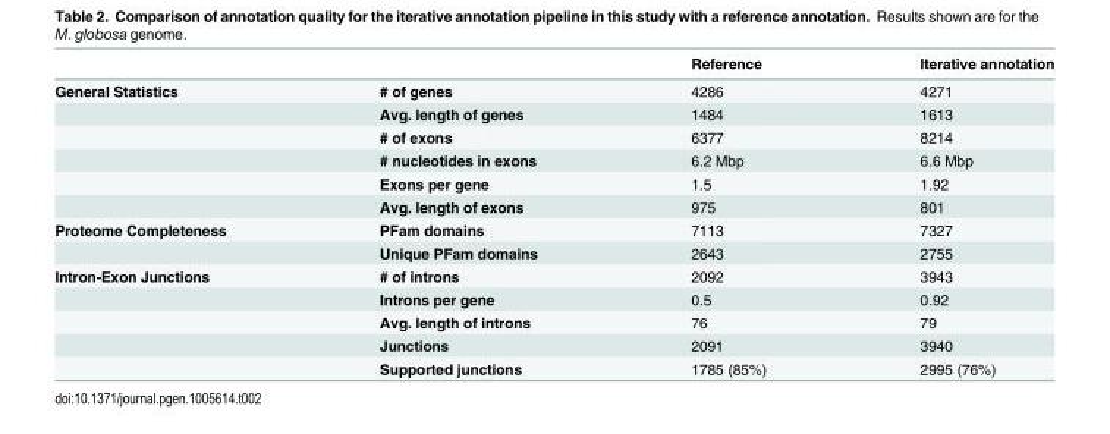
<table><thead><tr><td></td><td></td><td>Reference</td><td>Iterative annotation</td></tr></thead><tbody><tr><td rowspan="6">General Statistics</td><td># of genes</td><td>4286</td><td>4271</td></tr><tr><td>Avg. length of genes</td><td>1484</td><td>1613</td></tr><tr><td># of exons</td><td>6377</td><td>8214</td></tr><tr><td># nucleotides in exons</td><td>6.2 Mbp</td><td>6.6 Mbp</td></tr><tr><td>Exons per gene</td><td>1.5</td><td>1.92</td></tr><tr><td>Avg. length of exons</td><td>975</td><td>801</td></tr><tr><td rowspan="2">Proteome Completeness</td><td>PFam domains</td><td>7113</td><td>7327</td></tr><tr><td>Unique PFam domains</td><td>2643</td><td>2755</td></tr><tr><td rowspan="5">Intron-Exon Junctions</td><td># of introns</td><td>2092</td><td>3943</td></tr><tr><td>Introns per gene</td><td>0.5</td><td>0.92</td></tr><tr><td>Avg. length of introns</td><td>76</td><td>79</td></tr><tr><td>Junctions</td><td>2091</td><td>3940</td></tr><tr><td>Supported junctions</td><td>1785 (85%)</td><td>2995 (76%)</td></tr></tbody></table>